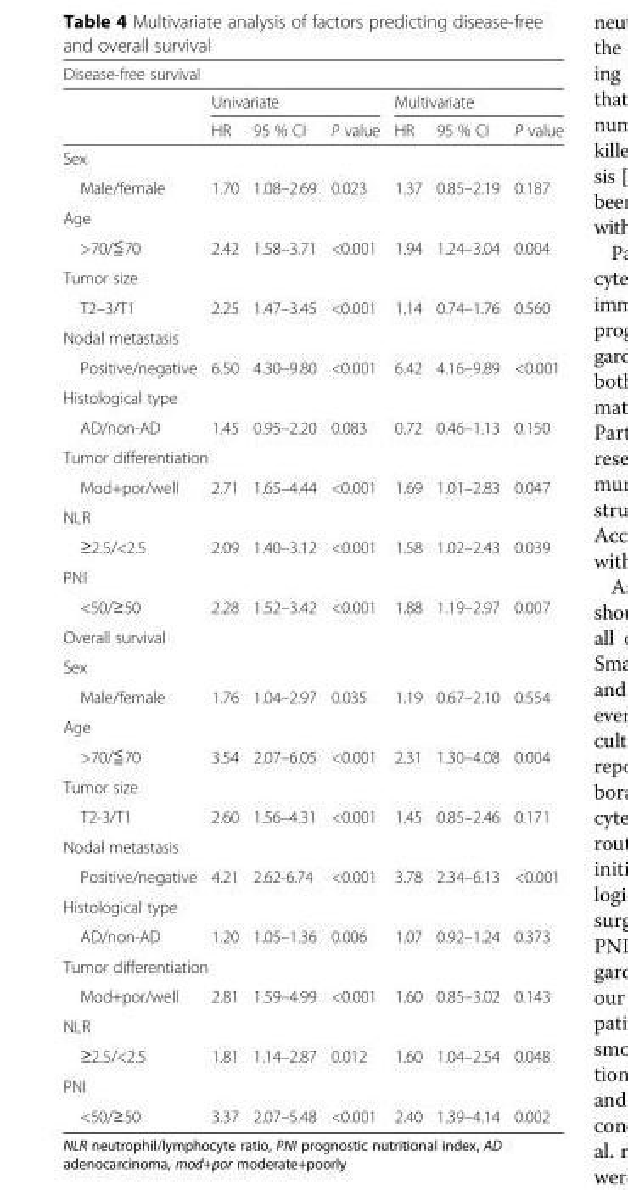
<table><thead><tr><td colspan="7">Disease-free survival</td></tr><tr><td rowspan="2"></td><td colspan="3">Univariate</td><td colspan="3">Multivariate</td></tr><tr><td>HR</td><td>95 % CI</td><td>P value</td><td>HR</td><td>95 % CI</td><td>P value</td></tr></thead><tbody><tr><td colspan="7">Sex</td></tr><tr><td>Male/female</td><td>1.70</td><td>1.08–2.69</td><td>0.023</td><td>1.37</td><td>0.85–2.19</td><td>0.187</td></tr><tr><td colspan="7">Age</td></tr><tr><td>&gt;70/≦70</td><td>2.42</td><td>1.58–3.71</td><td>&lt;0.001</td><td>1.94</td><td>1.24–3.04</td><td>0.004</td></tr><tr><td colspan="7">Tumor size</td></tr><tr><td>T2–3/T1</td><td>2.25</td><td>1.47–3.45</td><td>&lt;0.001</td><td>1.14</td><td>0.74–1.76</td><td>0.560</td></tr><tr><td colspan="7">Nodal metastasis</td></tr><tr><td>Positive/negative</td><td>6.50</td><td>4.30–9.80</td><td>&lt;0.001</td><td>6.42</td><td>4.16–9.89</td><td>&lt;0.001</td></tr><tr><td colspan="7">Histological type</td></tr><tr><td>AD/non-AD</td><td>1.45</td><td>0.95–2.20</td><td>0.083</td><td>0.72</td><td>0.46–1.13</td><td>0.150</td></tr><tr><td colspan="7">Tumor differentiation</td></tr><tr><td>Mod+por/well</td><td>2.71</td><td>1.65–4.44</td><td>&lt;0.001</td><td>1.69</td><td>1.01–2.83</td><td>0.047</td></tr><tr><td colspan="7">NLR</td></tr><tr><td>≥2.5/&lt;2.5</td><td>2.09</td><td>1.40–3.12</td><td>&lt;0.001</td><td>1.58</td><td>1.02–2.43</td><td>0.039</td></tr><tr><td colspan="7">PNI</td></tr><tr><td>&lt;50/≥50</td><td>2.28</td><td>1.52–3.42</td><td>&lt;0.001</td><td>1.88</td><td>1.19–2.97</td><td>0.007</td></tr><tr><td colspan="7">Overall survival</td></tr><tr><td colspan="7">Sex</td></tr><tr><td>Male/female</td><td>1.76</td><td>1.04–2.97</td><td>0.035</td><td>1.19</td><td>0.67–2.10</td><td>0.554</td></tr><tr><td colspan="7">Age</td></tr><tr><td>&gt;70/≦70</td><td>3.54</td><td>2.07–6.05</td><td>&lt;0.001</td><td>2.31</td><td>1.30–4.08</td><td>0.004</td></tr><tr><td colspan="7">Tumor size</td></tr><tr><td>T2-3/T1</td><td>2.60</td><td>1.56–4.31</td><td>&lt;0.001</td><td>1.45</td><td>0.85–2.46</td><td>0.171</td></tr><tr><td colspan="7">Nodal metastasis</td></tr><tr><td>Positive/negative</td><td>4.21</td><td>2.62-6.74</td><td>&lt;0.001</td><td>3.78</td><td>2.34–6.13</td><td>&lt;0.001</td></tr><tr><td colspan="7">Histological type</td></tr><tr><td>AD/non-AD</td><td>1.20</td><td>1.05–1.36</td><td>0.006</td><td>1.07</td><td>0.92–1.24</td><td>0.373</td></tr><tr><td colspan="7">Tumor differentiation</td></tr><tr><td>Mod+por/well</td><td>2.81</td><td>1.59–4.99</td><td>&lt;0.001</td><td>1.60</td><td>0.85–3.02</td><td>0.143</td></tr><tr><td colspan="7">NLR</td></tr><tr><td>≥2.5/&lt;2.5</td><td>1.81</td><td>1.14–2.87</td><td>0.012</td><td>1.60</td><td>1.04–2.54</td><td>0.048</td></tr><tr><td colspan="7">PNI</td></tr><tr><td>&lt;50/≥50</td><td>3.37</td><td>2.07–5.48</td><td>&lt;0.001</td><td>2.40</td><td>1.39–4.14</td><td>0.002</td></tr></tbody></table>